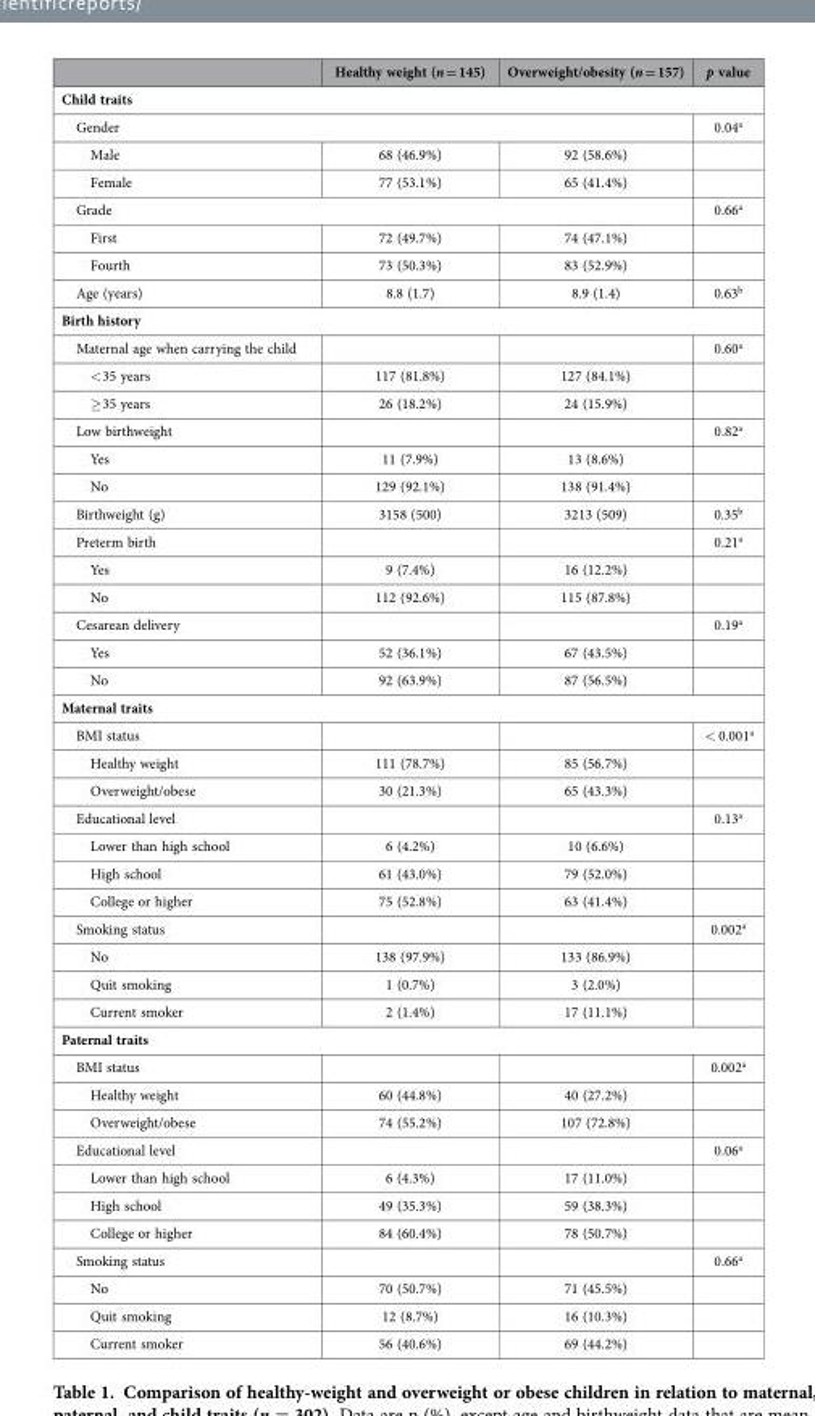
<table><thead><tr><td></td><td>Healthy weight (n = 145)</td><td>Overweight/obesity (n = 157)</td><td>p value</td></tr></thead><tbody><tr><td colspan="4">Child traits</td></tr><tr><td colspan="3">Gender</td><td>0.04a</td></tr><tr><td>Male</td><td>68 (46.9%)</td><td>92 (58.6%)</td><td></td></tr><tr><td>Female</td><td>77 (53.1%)</td><td>65 (41.4%)</td><td></td></tr><tr><td colspan="3">Grade</td><td>0.66<sup>a</sup></td></tr><tr><td>First</td><td>72 (49.7%)</td><td>74 (47.1%)</td><td></td></tr><tr><td>Fourth</td><td>73 (50.3%)</td><td>83 (52.9%)</td><td></td></tr><tr><td>Age (years)</td><td>8.8 (1.7)</td><td>8.9 (1.4)</td><td>0.63<sup>b</sup></td></tr><tr><td colspan="4">Birth history</td></tr><tr><td>Maternal age when carrying the child</td><td></td><td></td><td>0.60<sup>a</sup></td></tr><tr><td>&lt; 35 years</td><td>117 (81.8%)</td><td>127 (84.1%)</td><td></td></tr><tr><td>≥ 35 years</td><td>26 (18.2%)</td><td>24 (15.9%)</td><td></td></tr><tr><td>Low birthweight</td><td></td><td></td><td>0.82<sup>a</sup></td></tr><tr><td>Yes</td><td>11 (7.9%)</td><td>13 (8.6%)</td><td></td></tr><tr><td>No</td><td>129 (92.1%)</td><td>138 (91.4%)</td><td></td></tr><tr><td>Birthweight (g)</td><td>3158 (500)</td><td>3213 (509)</td><td>0.35<sup>b</sup></td></tr><tr><td>Preterm birth</td><td></td><td></td><td>0.21<sup>a</sup></td></tr><tr><td>Yes</td><td>9 (7.4%)</td><td>16 (12.2%)</td><td></td></tr><tr><td>No</td><td>112 (92.6%)</td><td>115 (87.8%)</td><td></td></tr><tr><td>Cesarean delivery</td><td></td><td></td><td>0.19<sup>a</sup></td></tr><tr><td>Yes</td><td>52 (36.1%)</td><td>67 (43.5%)</td><td></td></tr><tr><td>No</td><td>92 (63.9%)</td><td>87 (56.5%)</td><td></td></tr><tr><td colspan="4">Maternal traits</td></tr><tr><td>BMI status</td><td></td><td></td><td>&lt; 0.001<sup>a</sup></td></tr><tr><td>Healthy weight</td><td>111 (78.7%)</td><td>85 (56.7%)</td><td></td></tr><tr><td>Overweight/obese</td><td>30 (21.3%)</td><td>65 (43.3%)</td><td></td></tr><tr><td>Educational level</td><td></td><td></td><td>0.13<sup>a</sup></td></tr><tr><td>Lower than high school</td><td>6 (4.2%)</td><td>10 (6.6%)</td><td></td></tr><tr><td>High school</td><td>61 (43.0%)</td><td>79 (52.0%)</td><td></td></tr><tr><td>College or higher</td><td>75 (52.8%)</td><td>63 (41.4%)</td><td></td></tr><tr><td>Smoking status</td><td></td><td></td><td>0.002<sup>a</sup></td></tr><tr><td>No</td><td>138 (97.9%)</td><td>133 (86.9%)</td><td></td></tr><tr><td>Quit smoking</td><td>1 (0.7%)</td><td>3 (2.0%)</td><td></td></tr><tr><td>Current smoker</td><td>2 (1.4%)</td><td>17 (11.1%)</td><td></td></tr><tr><td colspan="4">Paternal traits</td></tr><tr><td>BMI status</td><td></td><td></td><td>0.002<sup>a</sup></td></tr><tr><td>Healthy weight</td><td>60 (44.8%)</td><td>40 (27.2%)</td><td></td></tr><tr><td>Overweight/obese</td><td>74 (55.2%)</td><td>107 (72.8%)</td><td></td></tr><tr><td>Educational level</td><td></td><td></td><td>0.06<sup>a</sup></td></tr><tr><td>Lower than high school</td><td>6 (4.3%)</td><td>17 (11.0%)</td><td></td></tr><tr><td>High school</td><td>49 (35.3%)</td><td>59 (38.3%)</td><td></td></tr><tr><td>College or higher</td><td>84 (60.4%)</td><td>78 (50.7%)</td><td></td></tr><tr><td>Smoking status</td><td></td><td></td><td>0.66<sup>a</sup></td></tr><tr><td>No</td><td>70 (50.7%)</td><td>71 (45.5%)</td><td></td></tr><tr><td>Quit smoking</td><td>12 (8.7%)</td><td>16 (10.3%)</td><td></td></tr><tr><td>Current smoker</td><td>56 (40.6%)</td><td>69 (44.2%)</td><td></td></tr></tbody></table>